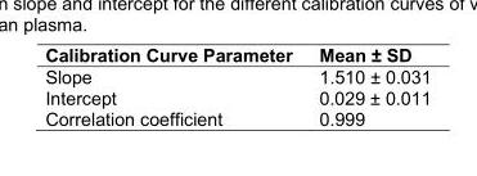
<table><thead><tr><td>Calibration Curve Parameter</td><td>Mean ± SD</td></tr></thead><tbody><tr><td>Slope</td><td>1.510 ± 0.031</td></tr><tr><td>Intercept</td><td>0.029 ± 0.011</td></tr><tr><td>Correlation coefficient</td><td>0.999</td></tr></tbody></table>